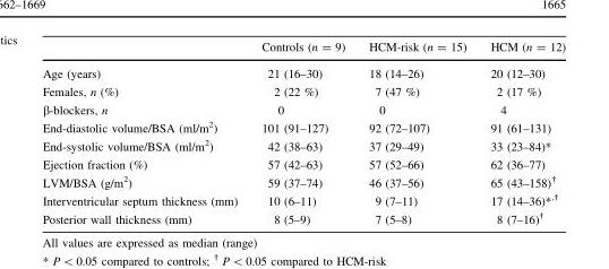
<table><thead><tr><td></td><td>Controls (n = 9)</td><td>HCM-risk (n = 15)</td><td>HCM (n = 12)</td></tr></thead><tbody><tr><td>Age (years)</td><td>21 (16–30)</td><td>18 (14–26)</td><td>20 (12–30)</td></tr><tr><td>Females, n (%)</td><td>2 (22 %)</td><td>7 (47 %)</td><td>2 (17 %)</td></tr><tr><td>β-blockers, n</td><td>0</td><td>0</td><td>4</td></tr><tr><td>End-diastolic volume/BSA (ml/m<sup>2</sup>)</td><td>101 (91–127)</td><td>92 (72–107)</td><td>91 (61–131)</td></tr><tr><td>End-systolic volume/BSA (ml/m<sup>2</sup>)</td><td>42 (38–63)</td><td>37 (29–49)</td><td>33 (23–84)*</td></tr><tr><td>Ejection fraction (%)</td><td>57 (42–63)</td><td>57 (52–66)</td><td>62 (36–77)</td></tr><tr><td>LVM/BSA (g/m<sup>2</sup>)</td><td>59 (37–74)</td><td>46 (37–56)</td><td>65 (43–158)<sup>†</sup></td></tr><tr><td>Interventricular septum thickness (mm)</td><td>10 (6–11)</td><td>9 (7–11)</td><td>17 (14–36)*<sup>,†</sup></td></tr><tr><td>Posterior wall thickness (mm)</td><td>8 (5–9)</td><td>7 (5–8)</td><td>8 (7–16)<sup>†</sup></td></tr></tbody></table>